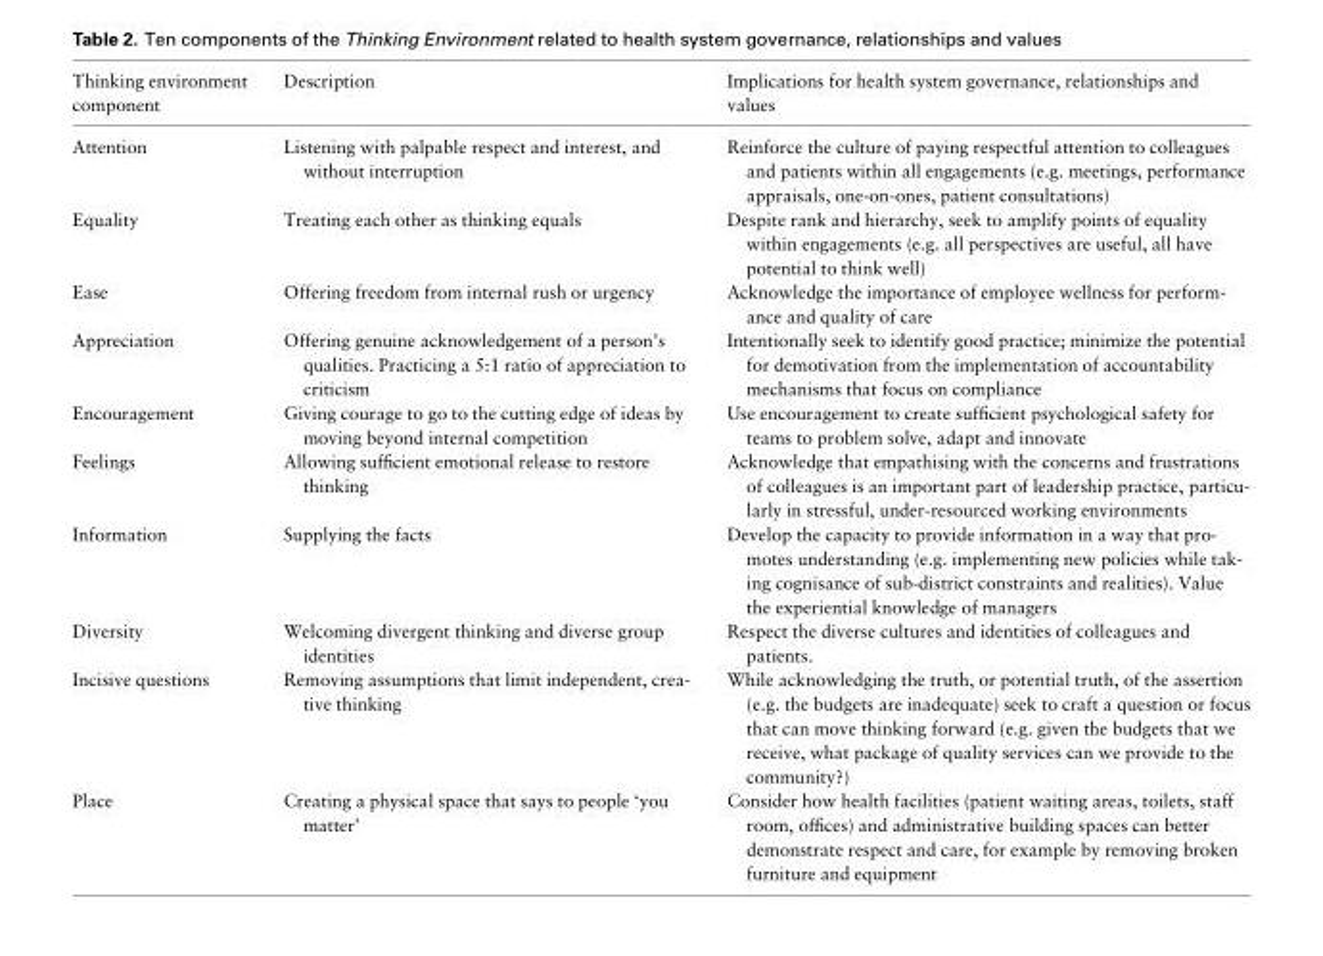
<table><thead><tr><td>Thinking environment component</td><td>Description</td><td>Implications for health system governance, relationships and values</td></tr></thead><tbody><tr><td>Attention</td><td>Listening with palpable respect and interest, and without interruption</td><td>Reinforce the culture of paying respectful attention to colleagues and patients within all engagements (e.g. meetings, performance appraisals, one-on-ones, patient consultations)</td></tr><tr><td>Equality</td><td>Treating each other as thinking equals</td><td>Despite rank and hierarchy, seek to amplify points of equality within engagements (e.g. all perspectives are useful, all have potential to think well)</td></tr><tr><td>Ease</td><td>Offering freedom from internal rush or urgency</td><td>Acknowledge the importance of employee wellness for perform- ance and quality of care</td></tr><tr><td>Appreciation</td><td>Offering genuine acknowledgement of a person’s qualities. Practicing a 5:1 ratio of appreciation to criticism</td><td>Intentionally seek to identify good practice; minimize the potential for demotivation from the implementation of accountability mechanisms that focus on compliance</td></tr><tr><td>Encouragement</td><td>Giving courage to go to the cutting edge of ideas by moving beyond internal competition</td><td>Use encouragement to create sufficient psychological safety for teams to problem solve, adapt and innovate</td></tr><tr><td>Feelings</td><td>Allowing sufficient emotional release to restore thinking</td><td>Acknowledge that empathising with the concerns and frustrations of colleagues is an important part of leadership practice, particu- larly in stressful, under-resourced working environments</td></tr><tr><td>Information</td><td>Supplying the facts</td><td>Develop the capacity to provide information in a way that pro- motes understanding (e.g. implementing new policies while tak- ing cognisance of sub-district constraints and realities). Value the experiential knowledge of managers</td></tr><tr><td>Diversity</td><td>Welcoming divergent thinking and diverse group identities</td><td>Respect the diverse cultures and identities of colleagues and patients.</td></tr><tr><td>Incisive questions</td><td>Removing assumptions that limit independent, crea- tive thinking</td><td>While acknowledging the truth, or potential truth, of the assertion (e.g. the budgets are inadequate) seek to craft a question or focus that can move thinking forward (e.g. given the budgets that we receive, what package of quality services can we provide to the community?)</td></tr><tr><td>Place</td><td>Creating a physical space that says to people ‘you matter’</td><td>Consider how health facilities (patient waiting areas, toilets, staff room, offices) and administrative building spaces can better demonstrate respect and care, for example by removing broken furniture and equipment</td></tr></tbody></table>